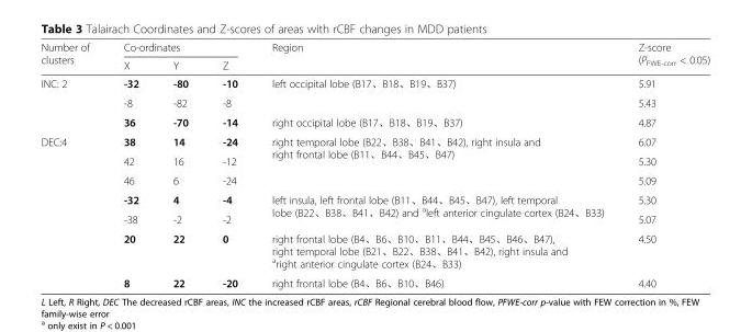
<table><thead><tr><td rowspan="2">Number of clusters</td><td colspan="3">Co-ordinates</td><td rowspan="2">Region</td><td rowspan="2">Z-score (P<sub>FWE-corr</sub> &lt; 0.05)</td></tr><tr><td>X</td><td>Y</td><td>Z</td></tr></thead><tbody><tr><td rowspan="3">INC: 2</td><td>-32</td><td>-80</td><td>-10</td><td rowspan="2">left occipital lobe (B17、B18、B19、B37)</td><td>5.91</td></tr><tr><td>-8</td><td>-82</td><td>-8</td><td>5.43</td></tr><tr><td>36</td><td>-70</td><td>-14</td><td>right occipital lobe (B17、B18、B19、B37)</td><td>4.87</td></tr><tr><td rowspan="7">DEC:4</td><td>38</td><td>14</td><td>-24</td><td rowspan="3">right temporal lobe (B22、B38、B41、B42), right insula and right frontal lobe (B11、B44、B45、B47)</td><td>6.07</td></tr><tr><td>42</td><td>16</td><td>-12</td><td>5.30</td></tr><tr><td>46</td><td>6</td><td>-24</td><td>5.09</td></tr><tr><td>-32</td><td>4</td><td>-4</td><td rowspan="2">left insula, left frontal lobe (B11、B44、B45、B47), left temporal lobe (B22、B38、B41、B42) and <sup>a</sup>left anterior cingulate cortex (B24、B33)</td><td>5.30</td></tr><tr><td>-38</td><td>-2</td><td>-2</td><td>5.07</td></tr><tr><td>20</td><td>22</td><td>0</td><td>right frontal lobe (B4、B6、B10、B11、B44、B45、B46、B47), right temporal lobe (B21、B22、B38、B41、B42), right insula and <sup>a</sup>right anterior cingulate cortex (B24、B33)</td><td>4.50</td></tr><tr><td>8</td><td>22</td><td>-20</td><td>right frontal lobe (B4、B6、B10、B46)</td><td>4.40</td></tr></tbody></table>